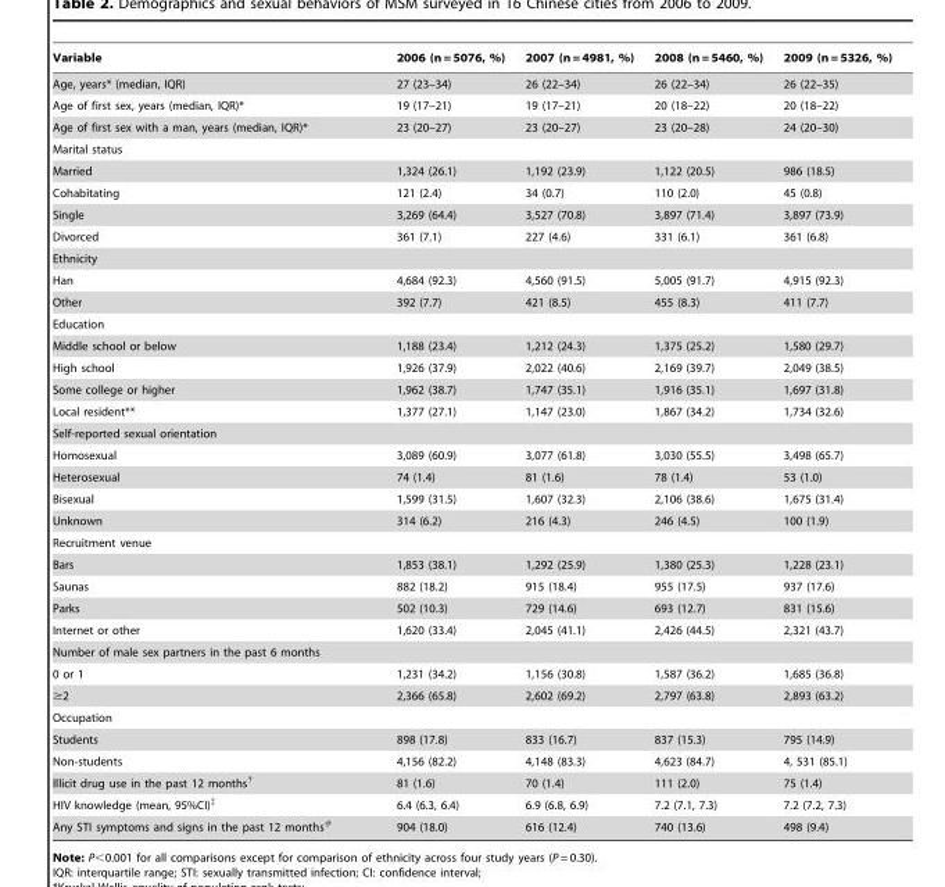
<table><thead><tr><td>Variable</td><td>2006 (n = 5076, %)</td><td>2007 (n = 4981, %)</td><td>2008 (n = 5460, %)</td><td>2009 (n = 5326, %)</td></tr></thead><tbody><tr><td>Age, years* (median, IQR)</td><td>27 (23–34)</td><td>26 (22–34)</td><td>26 (22–34)</td><td>26 (22–35)</td></tr><tr><td>Age of first sex, years (median, IQR)*</td><td>19 (17–21)</td><td>19 (17–21)</td><td>20 (18–22)</td><td>20 (18–22)</td></tr><tr><td>Age of first sex with a man, years (median, IQR)*</td><td>23 (20–27)</td><td>23 (20–27)</td><td>23 (20–28)</td><td>24 (20–30)</td></tr><tr><td colspan="5">Marital status</td></tr><tr><td>Married</td><td>1,324 (26.1)</td><td>1,192 (23.9)</td><td>1,122 (20.5)</td><td>986 (18.5)</td></tr><tr><td>Cohabitating</td><td>121 (2.4)</td><td>34 (0.7)</td><td>110 (2.0)</td><td>45 (0.8)</td></tr><tr><td>Single</td><td>3,269 (64.4)</td><td>3,527 (70.8)</td><td>3,897 (71.4)</td><td>3,897 (73.9)</td></tr><tr><td>Divorced</td><td>361 (7.1)</td><td>227 (4.6)</td><td>331 (6.1)</td><td>361 (6.8)</td></tr><tr><td colspan="5">Ethnicity</td></tr><tr><td>Han</td><td>4,684 (92.3)</td><td>4,560 (91.5)</td><td>5,005 (91.7)</td><td>4,915 (92.3)</td></tr><tr><td>Other</td><td>392 (7.7)</td><td>421 (8.5)</td><td>455 (8.3)</td><td>411 (7.7)</td></tr><tr><td colspan="5">Education</td></tr><tr><td>Middle school or below</td><td>1,188 (23.4)</td><td>1,212 (24.3)</td><td>1,375 (25.2)</td><td>1,580 (29.7)</td></tr><tr><td>High school</td><td>1,926 (37.9)</td><td>2,022 (40.6)</td><td>2,169 (39.7)</td><td>2,049 (38.5)</td></tr><tr><td>Some college or higher</td><td>1,962 (38.7)</td><td>1,747 (35.1)</td><td>1,916 (35.1)</td><td>1,697 (31.8)</td></tr><tr><td>Local resident**</td><td>1,377 (27.1)</td><td>1,147 (23.0)</td><td>1,867 (34.2)</td><td>1,734 (32.6)</td></tr><tr><td colspan="5">Self-reported sexual orientation</td></tr><tr><td>Homosexual</td><td>3,089 (60.9)</td><td>3,077 (61.8)</td><td>3,030 (55.5)</td><td>3,498 (65.7)</td></tr><tr><td>Heterosexual</td><td>74 (1.4)</td><td>81 (1.6)</td><td>78 (1.4)</td><td>53 (1.0)</td></tr><tr><td>Bisexual</td><td>1,599 (31.5)</td><td>1,607 (32.3)</td><td>2,106 (38.6)</td><td>1,675 (31.4)</td></tr><tr><td>Unknown</td><td>314 (6.2)</td><td>216 (4.3)</td><td>246 (4.5)</td><td>100 (1.9)</td></tr><tr><td colspan="5">Recruitment venue</td></tr><tr><td>Bars</td><td>1,853 (38.1)</td><td>1,292 (25.9)</td><td>1,380 (25.3)</td><td>1,228 (23.1)</td></tr><tr><td>Saunas</td><td>882 (18.2)</td><td>915 (18.4)</td><td>955 (17.5)</td><td>937 (17.6)</td></tr><tr><td>Parks</td><td>502 (10.3)</td><td>729 (14.6)</td><td>693 (12.7)</td><td>831 (15.6)</td></tr><tr><td>Internet or other</td><td>1,620 (33.4)</td><td>2,045 (41.1)</td><td>2,426 (44.5)</td><td>2,321 (43.7)</td></tr><tr><td colspan="5">Number of male sex partners in the past 6 months</td></tr><tr><td>0 or 1</td><td>1,231 (34.2)</td><td>1,156 (30.8)</td><td>1,587 (36.2)</td><td>1,685 (36.8)</td></tr><tr><td>≥2</td><td>2,366 (65.8)</td><td>2,602 (69.2)</td><td>2,797 (63.8)</td><td>2,893 (63.2)</td></tr><tr><td colspan="5">Occupation</td></tr><tr><td>Students</td><td>898 (17.8)</td><td>833 (16.7)</td><td>837 (15.3)</td><td>795 (14.9)</td></tr><tr><td>Non-students</td><td>4,156 (82.2)</td><td>4,148 (83.3)</td><td>4,623 (84.7)</td><td>4, 531 (85.1)</td></tr><tr><td>Illicit drug use in the past 12 months†</td><td>81 (1.6)</td><td>70 (1.4)</td><td>111 (2.0)</td><td>75 (1.4)</td></tr><tr><td>HIV knowledge (mean, 95%CI)‡</td><td>6.4 (6.3, 6.4)</td><td>6.9 (6.8, 6.9)</td><td>7.2 (7.1, 7.3)</td><td>7.2 (7.2, 7.3)</td></tr><tr><td>Any STI symptoms and signs in the past 12 months#</td><td>904 (18.0)</td><td>616 (12.4)</td><td>740 (13.6)</td><td>498 (9.4)</td></tr></tbody></table>